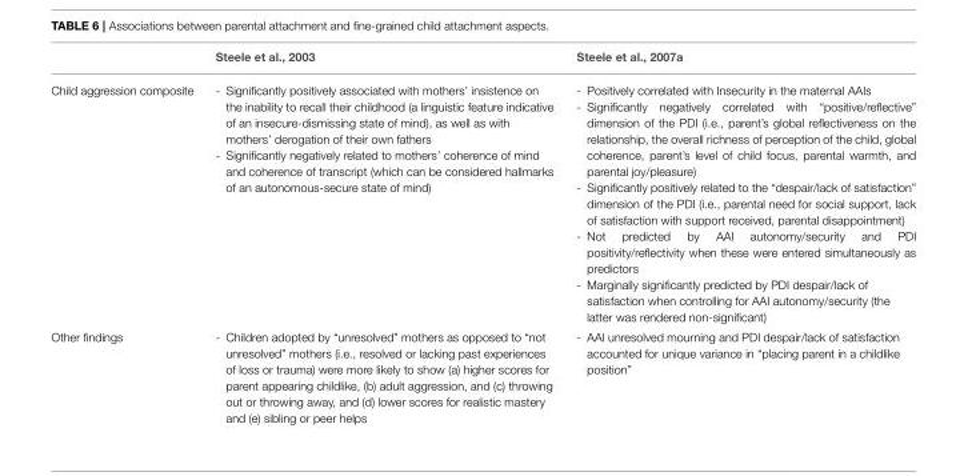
<table><thead><tr><td></td><td>Steele et al., 2003</td><td>Steele et al., 2007a</td></tr></thead><tbody><tr><td>Child aggression composite</td><td>- Significantly positively associated with mothers’ insistence on the inability to recall their childhood (a linguistic feature indicative of an insecure-dismissing state of mind), as well as with mothers’ derogation of their own fathers - Significantly negatively related to mothers’ coherence of mind and coherence of transcript (which can be considered hallmarks of an autonomous-secure state of mind)</td><td>- Positively correlated with Insecurity in the maternal AAIs - Significantly negatively correlated with “positive/reflective” dimension of the PDI (i.e., parent’s global reflectiveness on the relationship, the overall richness of perception of the child, global coherence, parent’s level of child focus, parental warmth, and parental joy/pleasure) - Significantly positively related to the “despair/lack of satisfaction” dimension of the PDI (i.e., parental need for social support, lack of satisfaction with support received, parental disappointment) - Not predicted by AAI autonomy/security and PDI positivity/reflectivity when these were entered simultaneously as predictors - Marginally significantly predicted by PDI despair/lack of satisfaction when controlling for AAI autonomy/security (the latter was rendered non-significant)</td></tr><tr><td>Other findings</td><td>- Children adopted by “unresolved” mothers as opposed to “not unresolved” mothers (i.e., resolved or lacking past experiences of loss or trauma) were more likely to show (a) higher scores for parent appearing childlike, (b) adult aggression, and (c) throwing out or throwing away, and (d) lower scores for realistic mastery and (e) sibling or peer helps</td><td>- AAI unresolved mourning and PDI despair/lack of satisfaction accounted for unique variance in “placing parent in a childlike position”</td></tr></tbody></table>